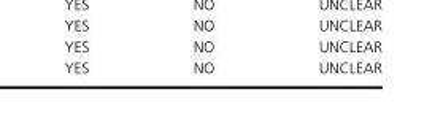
<table><tbody><tr><td>⁭YES</td><td>⁭NO</td><td>⁭UNCLEAR</td></tr></tbody></table>